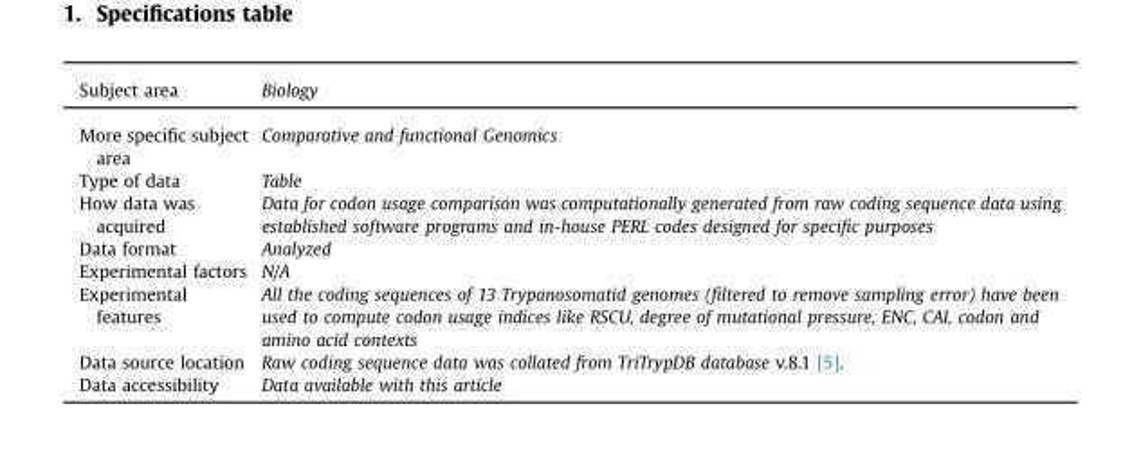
<table><thead><tr><td>Subject area</td><td>Biology</td></tr></thead><tbody><tr><td>More specific subject area</td><td>Comparative and functional Genomics</td></tr><tr><td>Type of data</td><td>Table</td></tr><tr><td>How data was acquired</td><td>Data for codon usage comparison was computationally generated from raw coding sequence data using established software programs and in-house PERL codes designed for specific purposes</td></tr><tr><td>Data format</td><td>Analyzed</td></tr><tr><td>Experimental factors</td><td>N/A</td></tr><tr><td>Experimental features</td><td>All the coding sequences of 13 Trypanosomatid genomes (filtered to remove sampling error) have been used to compute codon usage indices like RSCU, degree of mutational pressure, ENC, CAI, codon and amino acid contexts</td></tr><tr><td>Data source location</td><td>Raw coding sequence data was collated from TriTrypDB database v.8.1 [5].</td></tr><tr><td>Data accessibility</td><td>Data available with this article</td></tr></tbody></table>